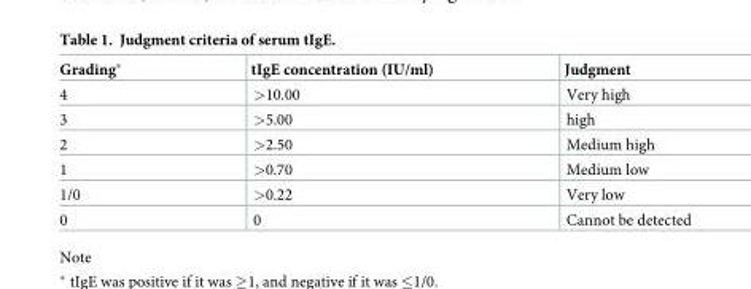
<table><thead><tr><td>Grading*</td><td>tIgE concentration (IU/ml)</td><td>Judgment</td></tr></thead><tbody><tr><td>4</td><td>&gt;10.00</td><td>Very high</td></tr><tr><td>3</td><td>&gt;5.00</td><td>high</td></tr><tr><td>2</td><td>&gt;2.50</td><td>Medium high</td></tr><tr><td>1</td><td>&gt;0.70</td><td>Medium low</td></tr><tr><td>1/0</td><td>&gt;0.22</td><td>Very low</td></tr><tr><td>0</td><td>0</td><td>Cannot be detected</td></tr></tbody></table>